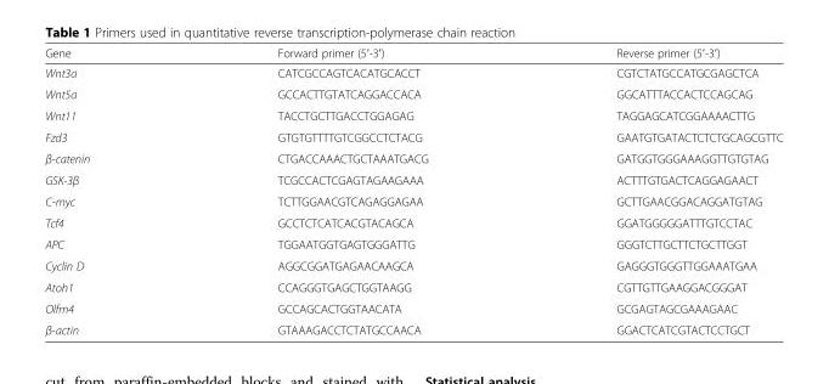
<table><thead><tr><td>Gene</td><td>Forward primer (5′-3′)</td><td>Reverse primer (5′-3′)</td></tr></thead><tbody><tr><td>Wnt3a</td><td>CATCGCCAGTCACATGCACCT</td><td>CGTCTATGCCATGCGAGCTCA</td></tr><tr><td>Wnt5a</td><td>GCCACTTGTATCAGGACCACA</td><td>GGCATTTACCACTCCAGCAG</td></tr><tr><td>Wnt11</td><td>TACCTGCTTGACCTGGAGAG</td><td>TAGGAGCATCGGAAAACTTG</td></tr><tr><td>Fzd3</td><td>GTGTGTTTTGTCGGCCTCTACG</td><td>GAATGTGATACTCTCTGCAGCGTTC</td></tr><tr><td>β-catenin</td><td>CTGACCAAACTGCTAAATGACG</td><td>GATGGTGGGAAAGGTTGTGTAG</td></tr><tr><td>GSK-3β</td><td>TCGCCACTCGAGTAGAAGAAA</td><td>ACTTTGTGACTCAGGAGAACT</td></tr><tr><td>C-myc</td><td>TCTTGGAACGTCAGAGGAGAA</td><td>GCTTGAACGGACAGGATGTAG</td></tr><tr><td>Tcf4</td><td>GCCTCTCATCACGTACAGCA</td><td>GGATGGGGGATTTGTCCTAC</td></tr><tr><td>APC</td><td>TGGAATGGTGAGTGGGATTG</td><td>GGGTCTTGCTTCTGCTTGGT</td></tr><tr><td>Cyclin D</td><td>AGGCGGATGAGAACAAGCA</td><td>GAGGGTGGGTTGGAAATGAA</td></tr><tr><td>Atoh1</td><td>CCAGGGTGAGCTGGTAAGG</td><td>CGTTGTTGAAGGACGGGAT</td></tr><tr><td>Olfm4</td><td>GCCAGCACTGGTAACATA</td><td>GCGAGTAGCGAAAGAAC</td></tr><tr><td>β-actin</td><td>GTAAAGACCTCTATGCCAACA</td><td>GGACTCATCGTACTCCTGCT</td></tr></tbody></table>